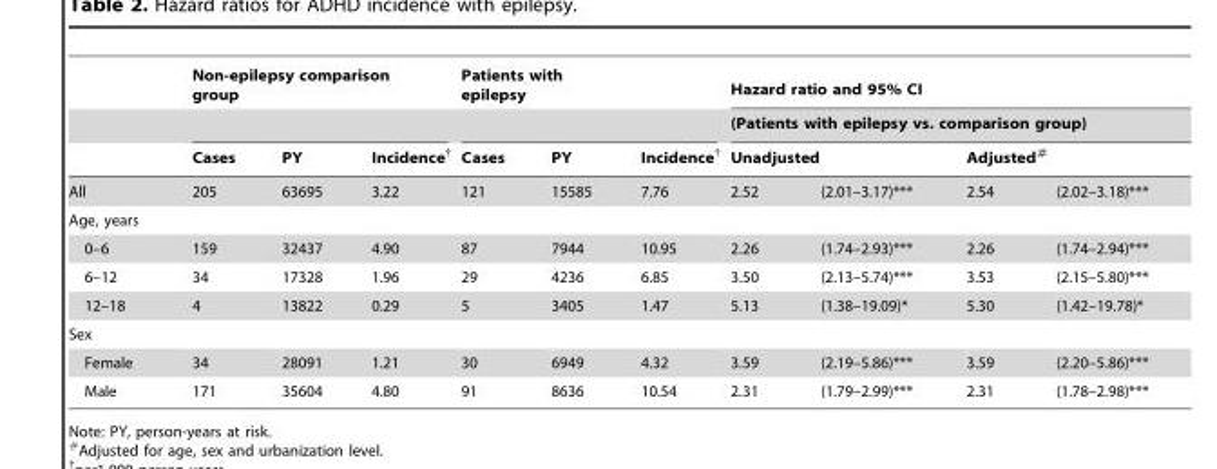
<table><thead><tr><td rowspan="4">All</td><td colspan="3">Non-epilepsy comparison group</td><td colspan="3">Patients with epilepsy</td><td rowspan="2" colspan="4">Hazard ratio and 95% CI (Patients with epilepsy vs. comparison group)</td></tr><tr><td rowspan="3">Cases 205</td><td rowspan="3">PY 63695</td><td rowspan="3">Incidence† 3.22</td><td rowspan="3">Cases 121</td><td rowspan="3">PY 15585</td><td rowspan="3">Incidence† 7.76</td></tr><tr><td colspan="2">Unadjusted</td><td colspan="2">Adjusted#</td></tr><tr><td>2.52</td><td>(2.01–3.17)***</td><td>2.54</td><td>(2.02–3.18)***</td></tr></thead><tbody><tr><td colspan="11">Age, years</td></tr><tr><td>0–6</td><td>159</td><td>32437</td><td>4.90</td><td>87</td><td>7944</td><td>10.95</td><td>2.26</td><td>(1.74–2.93)***</td><td>2.26</td><td>(1.74–2.94)***</td></tr><tr><td>6–12</td><td>34</td><td>17328</td><td>1.96</td><td>29</td><td>4236</td><td>6.85</td><td>3.50</td><td>(2.13–5.74)***</td><td>3.53</td><td>(2.15–5.80)***</td></tr><tr><td>12–18</td><td>4</td><td>13822</td><td>0.29</td><td>5</td><td>3405</td><td>1.47</td><td>5.13</td><td>(1.38–19.09)*</td><td>5.30</td><td>(1.42–19.78)*</td></tr><tr><td colspan="11">Sex</td></tr><tr><td>Female</td><td>34</td><td>28091</td><td>1.21</td><td>30</td><td>6949</td><td>4.32</td><td>3.59</td><td>(2.19–5.86)***</td><td>3.59</td><td>(2.20–5.86)***</td></tr><tr><td>Male</td><td>171</td><td>35604</td><td>4.80</td><td>91</td><td>8636</td><td>10.54</td><td>2.31</td><td>(1.79–2.99)***</td><td>2.31</td><td>(1.78–2.98)***</td></tr></tbody></table>